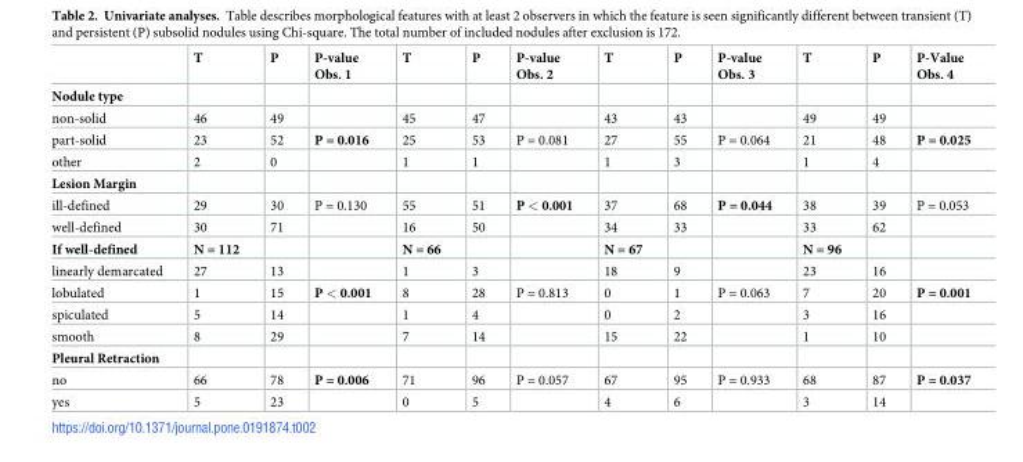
<table><thead><tr><td></td><td>T</td><td>P</td><td>P-value Obs. 1</td><td>T</td><td>P</td><td>P-value Obs. 2</td><td>T</td><td>P</td><td>P-value Obs. 3</td><td>T</td><td>P</td><td>P-Value Obs. 4</td></tr></thead><tbody><tr><td colspan="13">Nodule type</td></tr><tr><td>non-solid</td><td>46</td><td>49</td><td></td><td>45</td><td>47</td><td></td><td>43</td><td>43</td><td></td><td>49</td><td>49</td><td></td></tr><tr><td>part-solid</td><td>23</td><td>52</td><td>P = 0.016</td><td>25</td><td>53</td><td>P = 0.081</td><td>27</td><td>55</td><td>P = 0.064</td><td>21</td><td>48</td><td>P = 0.025</td></tr><tr><td>other</td><td>2</td><td>0</td><td></td><td>1</td><td>1</td><td></td><td>1</td><td>3</td><td></td><td>1</td><td>4</td><td></td></tr><tr><td colspan="13">Lesion Margin</td></tr><tr><td>ill-defined</td><td>29</td><td>30</td><td>P = 0.130</td><td>55</td><td>51</td><td>P &lt; 0.001</td><td>37</td><td>68</td><td>P = 0.044</td><td>38</td><td>39</td><td>P = 0.053</td></tr><tr><td>well-defined</td><td>30</td><td>71</td><td></td><td>16</td><td>50</td><td></td><td>34</td><td>33</td><td></td><td>33</td><td>62</td><td></td></tr><tr><td>If well-defined</td><td>N = 112</td><td></td><td></td><td>N = 66</td><td></td><td></td><td>N = 67</td><td></td><td></td><td>N = 96</td><td></td><td></td></tr><tr><td>linearly demarcated</td><td>27</td><td>13</td><td></td><td>1</td><td>3</td><td></td><td>18</td><td>9</td><td></td><td>23</td><td>16</td><td></td></tr><tr><td>lobulated</td><td>1</td><td>15</td><td>P &lt; 0.001</td><td>8</td><td>28</td><td>P = 0.813</td><td>0</td><td>1</td><td>P = 0.063</td><td>7</td><td>20</td><td>P = 0.001</td></tr><tr><td>spiculated</td><td>5</td><td>14</td><td></td><td>1</td><td>4</td><td></td><td>0</td><td>2</td><td></td><td>3</td><td>16</td><td></td></tr><tr><td>smooth</td><td>8</td><td>29</td><td></td><td>7</td><td>14</td><td></td><td>15</td><td>22</td><td></td><td>1</td><td>10</td><td></td></tr><tr><td colspan="13">Pleural Retraction</td></tr><tr><td>no</td><td>66</td><td>78</td><td>P = 0.006</td><td>71</td><td>96</td><td>P = 0.057</td><td>67</td><td>95</td><td>P = 0.933</td><td>68</td><td>87</td><td>P = 0.037</td></tr><tr><td>yes</td><td>5</td><td>23</td><td></td><td>0</td><td>5</td><td></td><td>4</td><td>6</td><td></td><td>3</td><td>14</td><td></td></tr></tbody></table>